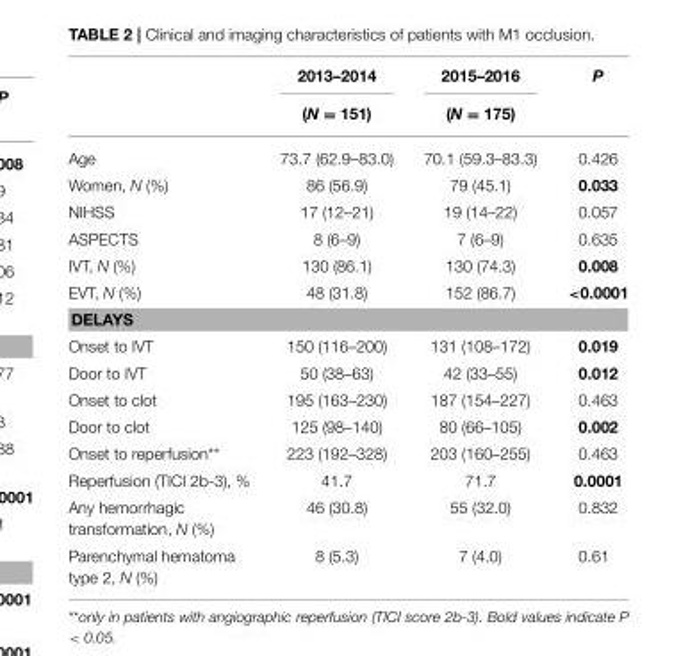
<table><thead><tr><td rowspan="2"></td><td rowspan="2">2013–2014 (N = 151)</td><td rowspan="2">2015–2016 (N = 175)</td><td rowspan="2">P</td></tr><tr></tr></thead><tbody><tr><td>Age</td><td>73.7 (62.9–83.0)</td><td>70.1 (59.3–83.3)</td><td>0.426</td></tr><tr><td>Women, N (%)</td><td>86 (56.9)</td><td>79 (45.1)</td><td>0.033</td></tr><tr><td>NIHSS</td><td>17 (12–21)</td><td>19 (14–22)</td><td>0.057</td></tr><tr><td>ASPECTS</td><td>8 (6–9)</td><td>7 (6–9)</td><td>0.635</td></tr><tr><td>IVT, N (%)</td><td>130 (86.1)</td><td>130 (74.3)</td><td>0.008</td></tr><tr><td>EVT, N (%)</td><td>48 (31.8)</td><td>152 (86.7)</td><td>&lt;0.0001</td></tr><tr><td colspan="4">DELAYS</td></tr><tr><td>Onset to IVT</td><td>150 (116–200)</td><td>131 (108–172)</td><td>0.019</td></tr><tr><td>Door to IVT</td><td>50 (38–63)</td><td>42 (33–55)</td><td>0.012</td></tr><tr><td>Onset to clot</td><td>195 (163–230)</td><td>187 (154–227)</td><td>0.463</td></tr><tr><td>Door to clot</td><td>125 (98–140)</td><td>80 (66–105)</td><td>0.002</td></tr><tr><td>Onset to reperfusion**</td><td>223 (192–328)</td><td>203 (160–255)</td><td>0.463</td></tr><tr><td>Reperfusion (TICI 2b-3), %</td><td>41.7</td><td>71.7</td><td>0.0001</td></tr><tr><td>Any hemorrhagic transformation, N (%)</td><td>46 (30.8)</td><td>55 (32.0)</td><td>0.832</td></tr><tr><td>Parenchymal hematoma type 2, N (%)</td><td>8 (5.3)</td><td>7 (4.0)</td><td>0.61</td></tr></tbody></table>